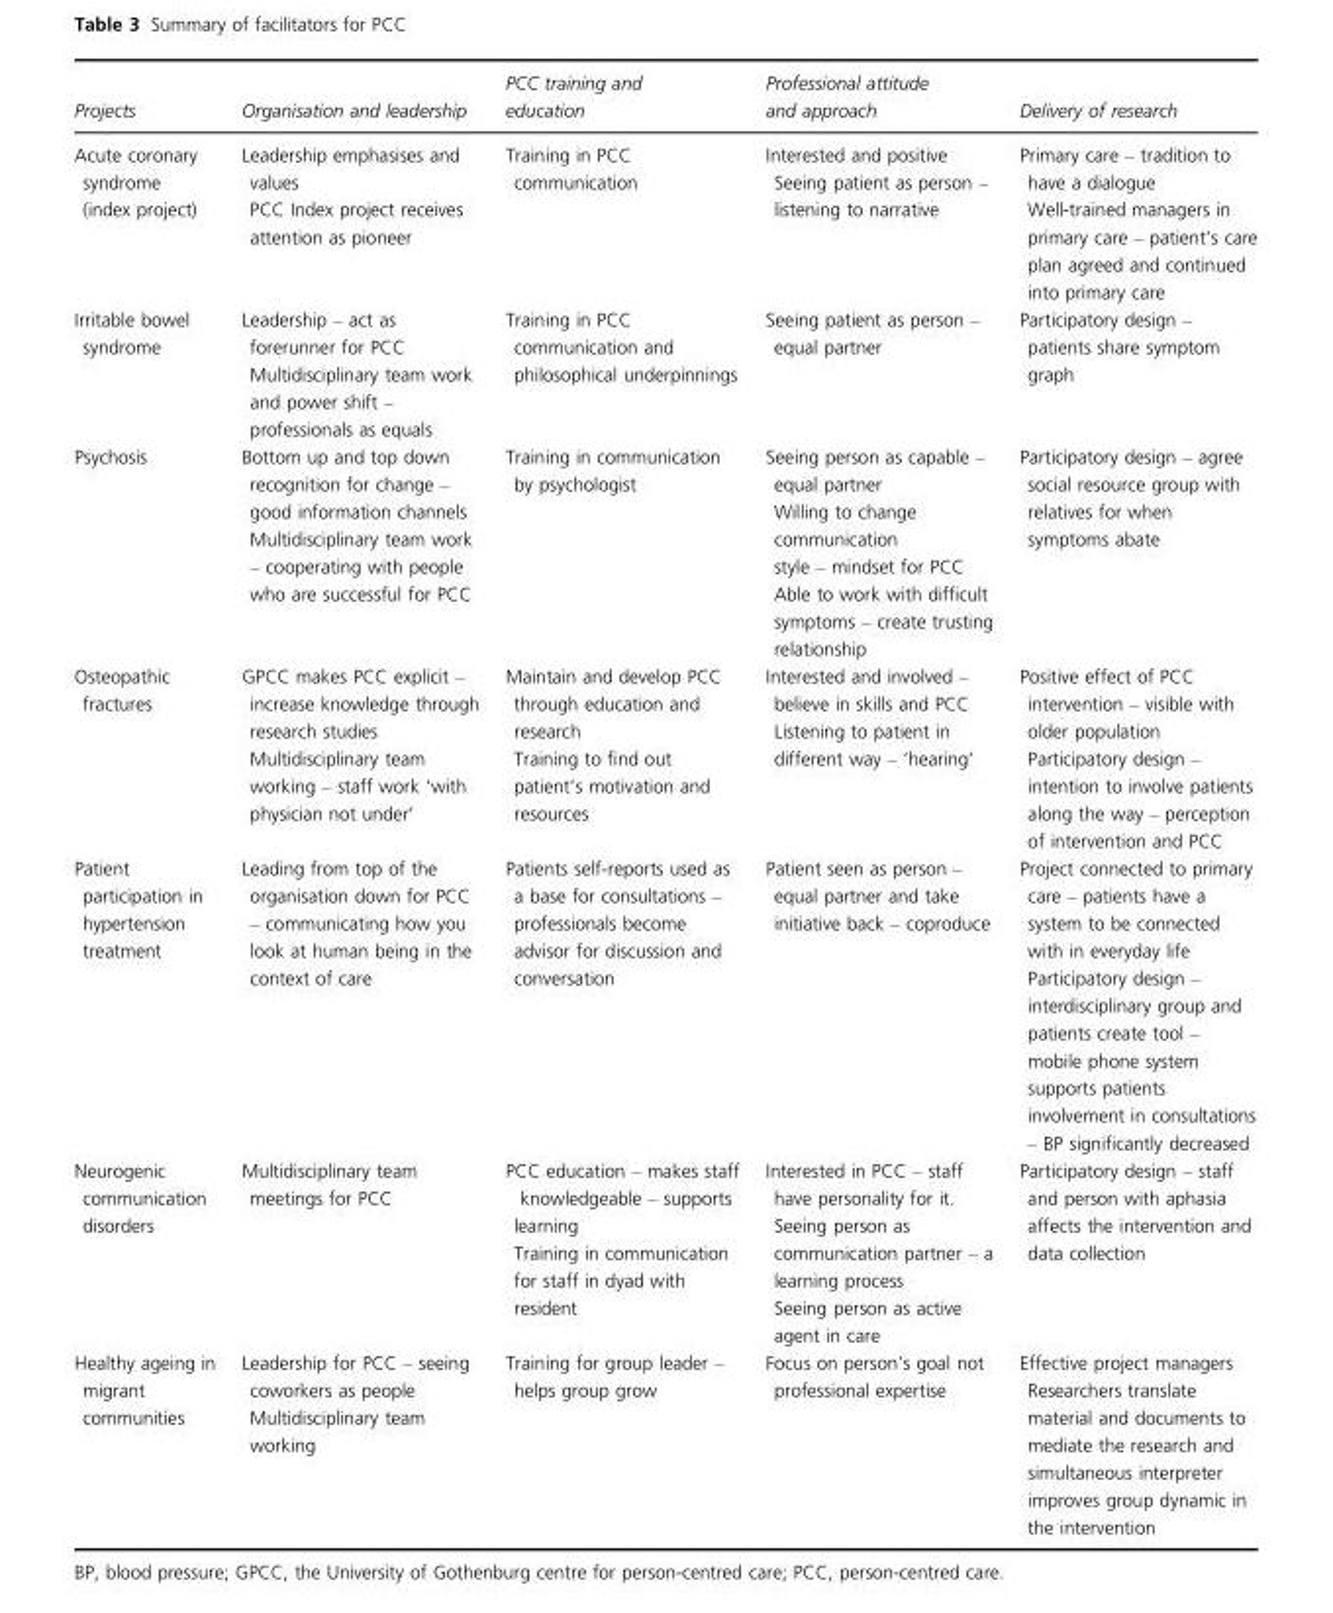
<table><thead><tr><td>Projects</td><td>Organisation and leadership</td><td>PCC training and education</td><td>Professional attitude and approach</td><td>Delivery of research</td></tr></thead><tbody><tr><td>Acute coronary syndrome (index project)</td><td>Leadership emphasises and values PCC Index project receives attention as pioneer</td><td>Training in PCC communication</td><td>Interested and positive Seeing patient as person – listening to narrative</td><td>Primary care – tradition to have a dialogue Well-trained managers in primary care – patient’s care plan agreed and continued into primary care</td></tr><tr><td>Irritable bowel syndrome</td><td>Leadership – act as forerunner for PCC Multidisciplinary team work and power shift – professionals as equals</td><td>Training in PCC communication and philosophical underpinnings</td><td>Seeing patient as person – equal partner</td><td>Participatory design – patients share symptom graph</td></tr><tr><td>Psychosis</td><td>Bottom up and top down recognition for change – good information channels Multidisciplinary team work – cooperating with people who are successful for PCC</td><td>Training in communication by psychologist</td><td>Seeing person as capable – equal partner Willing to change communication style – mindset for PCC Able to work with difficult symptoms – create trusting relationship</td><td>Participatory design – agree social resource group with relatives for when symptoms abate</td></tr><tr><td>Osteopathic fractures</td><td>GPCC makes PCC explicit – increase knowledge through research studies Multidisciplinary team working – staff work ‘with physician not under’</td><td>Maintain and develop PCC through education and research Training to find out patient’s motivation and resources</td><td>Interested and involved – believe in skills and PCC Listening to patient in different way – ‘hearing’</td><td>Positive effect of PCC intervention – visible with older population Participatory design – intention to involve patients along the way – perception of intervention and PCC</td></tr><tr><td>Patient participation in hypertension treatment</td><td>Leading from top of the organisation down for PCC – communicating how you look at human being in the context of care</td><td>Patients self-reports used as a base for consultations – professionals become advisor for discussion and conversation</td><td>Patient seen as person – equal partner and take initiative back – coproduce</td><td>Project connected to primary care – patients have a system to be connected with in everyday life Participatory design – interdisciplinary group and patients create tool – mobile phone system supports patients involvement in consultations – BP significantly decreased</td></tr><tr><td>Neurogenic communication disorders</td><td>Multidisciplinary team meetings for PCC</td><td>PCC education – makes staff knowledgeable – supports learning Training in communication for staff in dyad with resident</td><td>Interested in PCC – staff have personality for it. Seeing person as communication partner – a learning process Seeing person as active agent in care</td><td>Participatory design – staff and person with aphasia affects the intervention and data collection</td></tr><tr><td>Healthy ageing in migrant communities</td><td>Leadership for PCC – seeing coworkers as people Multidisciplinary team working</td><td>Training for group leader – helps group grow</td><td>Focus on person’s goal not professional expertise</td><td>Effective project managers Researchers translate material and documents to mediate the research and simultaneous interpreter improves group dynamic in the intervention</td></tr></tbody></table>